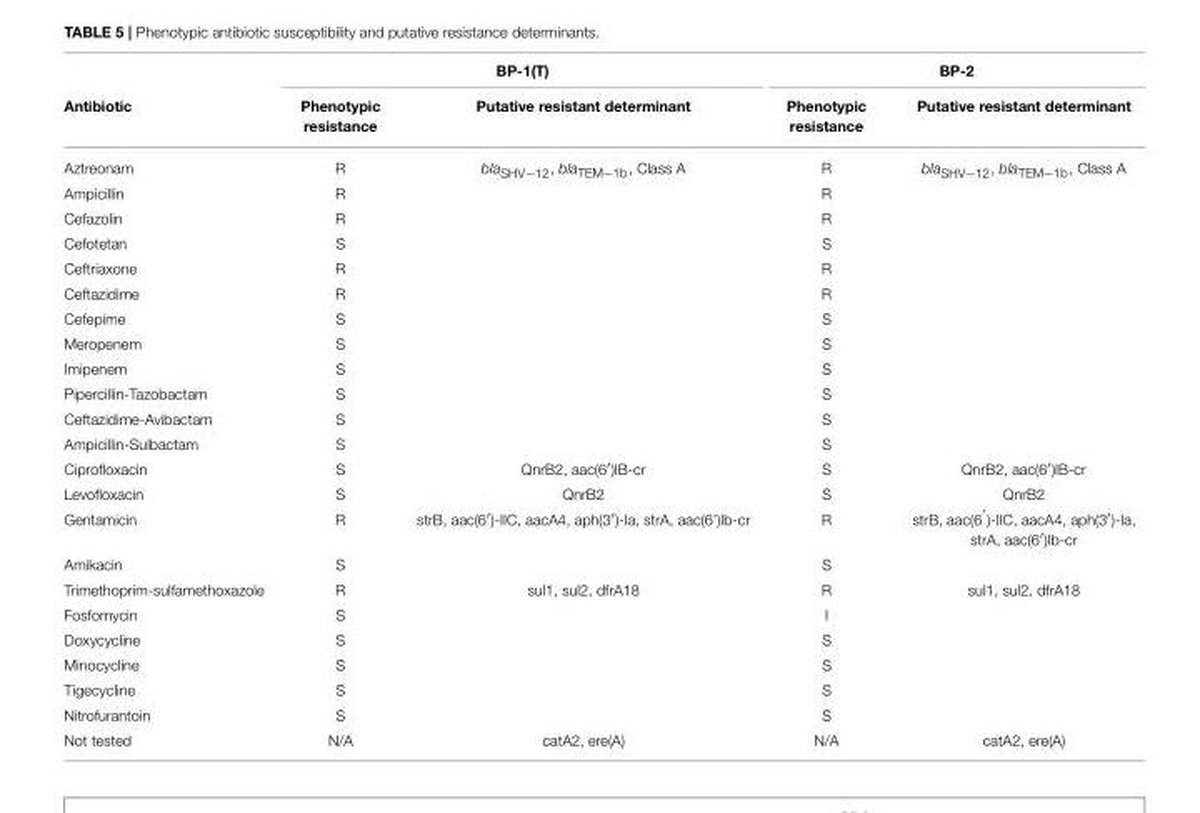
<table><thead><tr><td rowspan="2">Antibiotic</td><td colspan="2">BP-1(T)</td><td colspan="2">BP-2</td></tr><tr><td>Phenotypic resistance</td><td>Putative resistant determinant</td><td>Phenotypic resistance</td><td>Putative resistant determinant</td></tr></thead><tbody><tr><td>Aztreonam</td><td>R</td><td>bla<sub>SHV−12</sub>, bla<sub>TEM−1b</sub>, Class A</td><td>R</td><td>bla<sub>SHV−12</sub>, bla<sub>TEM−1b</sub>, Class A</td></tr><tr><td>Ampicillin</td><td>R</td><td></td><td>R</td><td></td></tr><tr><td>Cefazolin</td><td>R</td><td></td><td>R</td><td></td></tr><tr><td>Cefotetan</td><td>S</td><td></td><td>S</td><td></td></tr><tr><td>Ceftriaxone</td><td>R</td><td></td><td>R</td><td></td></tr><tr><td>Ceftazidime</td><td>R</td><td></td><td>R</td><td></td></tr><tr><td>Cefepime</td><td>S</td><td></td><td>S</td><td></td></tr><tr><td>Meropenem</td><td>S</td><td></td><td>S</td><td></td></tr><tr><td>Imipenem</td><td>S</td><td></td><td>S</td><td></td></tr><tr><td>Pipercillin-Tazobactam</td><td>S</td><td></td><td>S</td><td></td></tr><tr><td>Ceftazidime-Avibactam</td><td>S</td><td></td><td>S</td><td></td></tr><tr><td>Ampicillin-Sulbactam</td><td>S</td><td></td><td>S</td><td></td></tr><tr><td>Ciprofloxacin</td><td>S</td><td>QnrB2, aac(6′)IB-cr</td><td>S</td><td>QnrB2, aac(6′)IB-cr</td></tr><tr><td>Levofloxacin</td><td>S</td><td>QnrB2</td><td>S</td><td>QnrB2</td></tr><tr><td>Gentamicin</td><td>R</td><td>strB, aac(6′)-IIC, aacA4, aph(3′)-Ia, strA, aac(6’)Ib-cr</td><td>R</td><td>strB, aac(6 ′)-IIC, aacA4, aph(3′)-Ia, strA, aac(6′)Ib-cr</td></tr><tr><td>Amikacin</td><td>S</td><td></td><td>S</td><td></td></tr><tr><td>Trimethoprim-sulfamethoxazole</td><td>R</td><td>sul1, sul2, dfrA18</td><td>R</td><td>sul1, sul2, dfrA18</td></tr><tr><td>Fosfomycin</td><td>S</td><td></td><td>I</td><td></td></tr><tr><td>Doxycycline</td><td>S</td><td></td><td>S</td><td></td></tr><tr><td>Minocycline</td><td>S</td><td></td><td>S</td><td></td></tr><tr><td>Tigecycline</td><td>S</td><td></td><td>S</td><td></td></tr><tr><td>Nitrofurantoin</td><td>S</td><td></td><td>S</td><td></td></tr><tr><td>Not tested</td><td>N/A</td><td>catA2, ere(A)</td><td>N/A</td><td>catA2, ere(A)</td></tr></tbody></table>